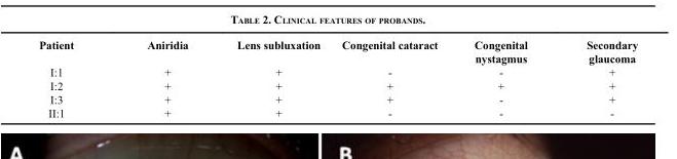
<table><thead><tr><td>Patient</td><td>Aniridia</td><td>Lens subluxation</td><td>Congenital cataract</td><td>Congenital nystagmus</td><td>Secondary glaucoma</td></tr></thead><tbody><tr><td>I:1</td><td>+</td><td>+</td><td>-</td><td>-</td><td>+</td></tr><tr><td>I:2</td><td>+</td><td>+</td><td>+</td><td>+</td><td>+</td></tr><tr><td>I:3</td><td>+</td><td>+</td><td>+</td><td>-</td><td>+</td></tr><tr><td>II:1</td><td>+</td><td>+</td><td>-</td><td>-</td><td>-</td></tr></tbody></table>